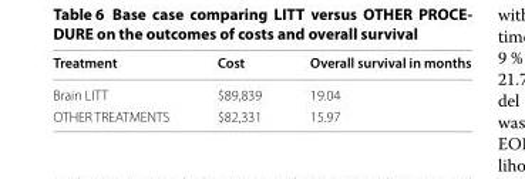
<table><thead><tr><td>Treatment</td><td>Cost</td><td>Overall survival in months</td></tr></thead><tbody><tr><td>Brain LITT</td><td>$89,839</td><td>19.04</td></tr><tr><td>OTHER TREATMENTS</td><td>$82,331</td><td>15.97</td></tr></tbody></table>